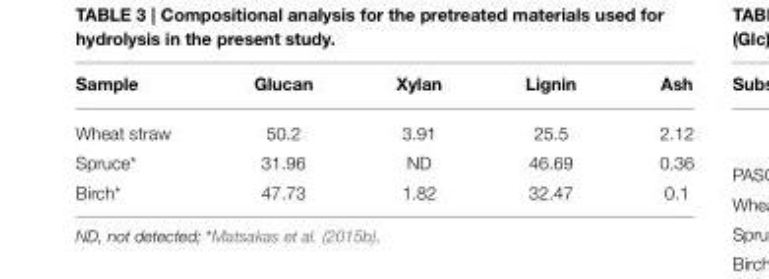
<table><thead><tr><td>Sample</td><td>Glucan</td><td>Xylan</td><td>Lignin</td><td>Ash</td></tr></thead><tbody><tr><td>Wheat straw</td><td>50.2</td><td>3.91</td><td>25.5</td><td>2.12</td></tr><tr><td>Spruce*</td><td>31.96</td><td>ND</td><td>46.69</td><td>0.36</td></tr><tr><td>Birch*</td><td>47.73</td><td>1.82</td><td>32.47</td><td>0.1</td></tr></tbody></table>